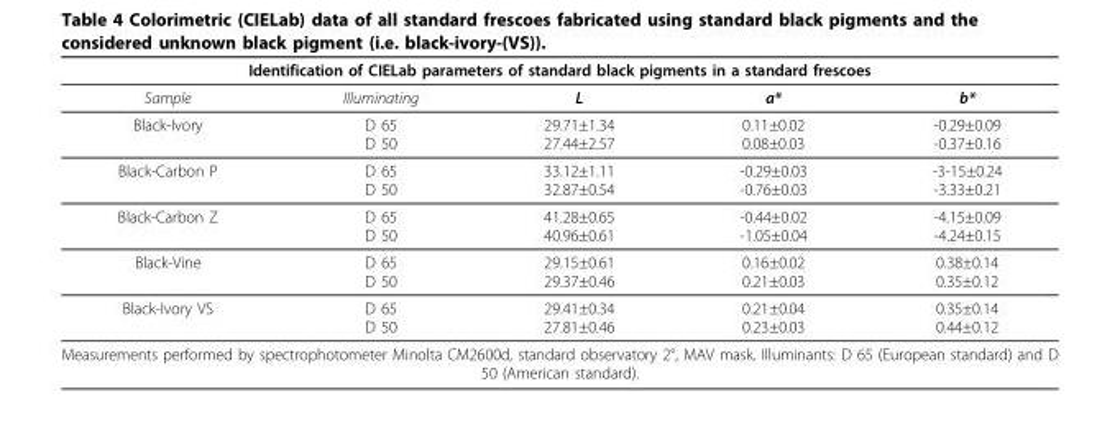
<table><thead><tr><td colspan="5">Identification of CIELab parameters of standard black pigments in a standard frescoes</td></tr><tr><td>Sample</td><td>Illuminating</td><td>L</td><td>a*</td><td>b*</td></tr></thead><tbody><tr><td>Black-Ivory</td><td>D 65 D 50</td><td>29.71±1.34 27.44±2.57</td><td>0.11±0.02 0.08±0.03</td><td>-0.29±0.09 -0.37±0.16</td></tr><tr><td>Black-Carbon P</td><td>D 65 D 50</td><td>33.12±1.11 32.87±0.54</td><td>-0.29±0.03 -0.76±0.03</td><td>-3-15±0.24 -3.33±0.21</td></tr><tr><td>Black-Carbon Z</td><td>D 65 D 50</td><td>41.28±0.65 40.96±0.61</td><td>-0.44±0.02 -1.05±0.04</td><td>-4.15±0.09 -4.24±0.15</td></tr><tr><td>Black-Vine</td><td>D 65 D 50</td><td>29.15±0.61 29.37±0.46</td><td>0.16±0.02 0.21±0.03</td><td>0.38±0.14 0.35±0.12</td></tr><tr><td>Black-Ivory VS</td><td>D 65 D 50</td><td>29.41±0.34 27.81±0.46</td><td>0.21±0.04 0.23±0.03</td><td>0.35±0.14 0.44±0.12</td></tr><tr><td colspan="5">Measurements performed by spectrophotometer Minolta CM2600d, standard observatory 2°, MAV mask. Illuminants: D 65 (European standard) and D 50 (American standard).</td></tr></tbody></table>